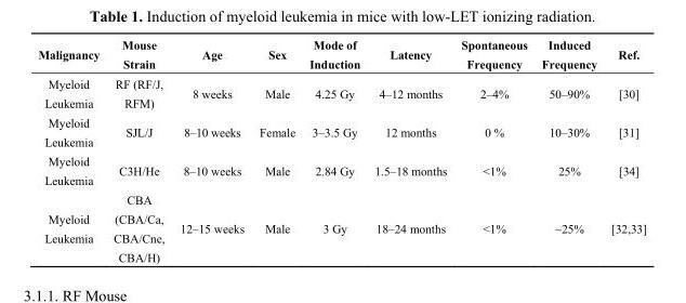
<table><thead><tr><td>Malignancy</td><td>Mouse Strain</td><td>Age</td><td>Sex</td><td>Mode of Induction</td><td>Latency</td><td>Spontaneous Frequency</td><td>Induced Frequency</td><td>Ref.</td></tr></thead><tbody><tr><td>Myeloid Leukemia</td><td>RF (RF/J, RFM)</td><td>8 weeks</td><td>Male</td><td>4.25 Gy</td><td>4–12 months</td><td>2–4%</td><td>50–90%</td><td>[30]</td></tr><tr><td>Myeloid Leukemia</td><td>SJL/J</td><td>8–10 weeks</td><td>Female</td><td>3–3.5 Gy</td><td>12 months</td><td>0 %</td><td>10–30%</td><td>[31]</td></tr><tr><td>Myeloid Leukemia</td><td>C3H/He</td><td>8–10 weeks</td><td>Male</td><td>2.84 Gy</td><td>1.5–18 months</td><td>&lt;1%</td><td>25%</td><td>[34]</td></tr><tr><td>Myeloid Leukemia</td><td>CBA (CBA/Ca, CBA/Cne, CBA/H)</td><td>12–15 weeks</td><td>Male</td><td>3 Gy</td><td>18–24 months</td><td>&lt;1%</td><td>~25%</td><td>[32,33]</td></tr></tbody></table>